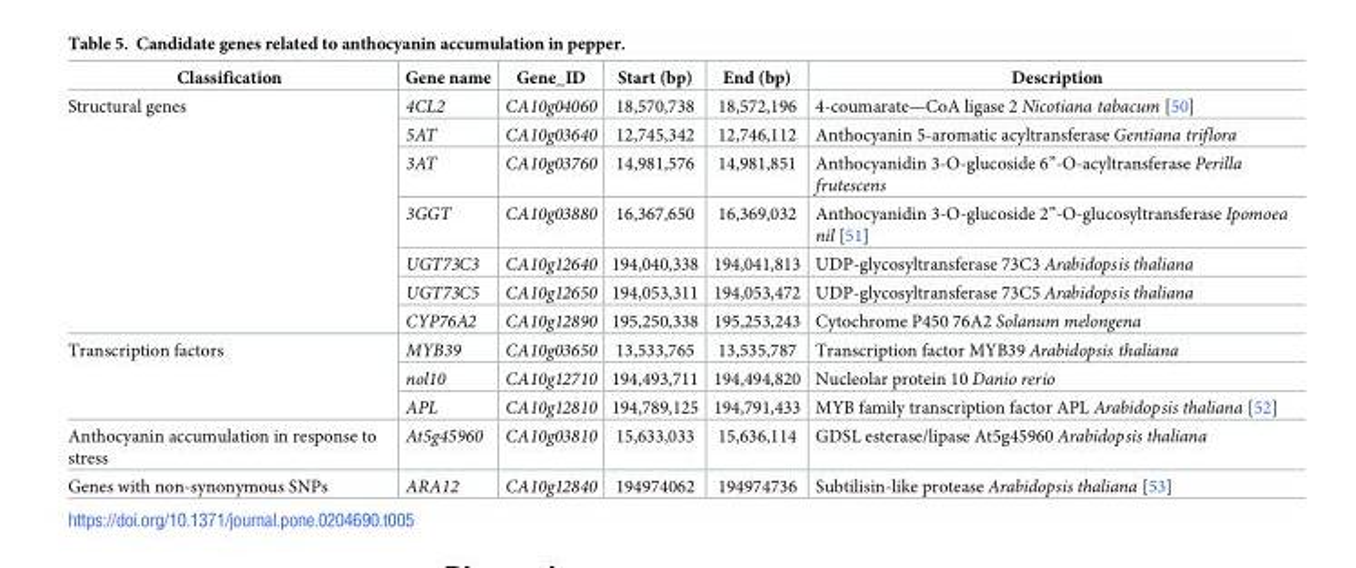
<table><thead><tr><td>Classification</td><td>Gene name</td><td>Gene_ID</td><td>Start (bp)</td><td>End (bp)</td><td>Description</td></tr></thead><tbody><tr><td rowspan="7">Structural genes</td><td>4CL2</td><td>CA10g04060</td><td>18,570,738</td><td>18,572,196</td><td>4-coumarate—CoA ligase 2 Nicotiana tabacum [50]</td></tr><tr><td>5AT</td><td>CA10g03640</td><td>12,745,342</td><td>12,746,112</td><td>Anthocyanin 5-aromatic acyltransferase Gentiana triflora</td></tr><tr><td>3AT</td><td>CA10g03760</td><td>14,981,576</td><td>14,981,851</td><td>Anthocyanidin 3-O-glucoside 6”-O-acyltransferase Perilla frutescens</td></tr><tr><td>3GGT</td><td>CA10g03880</td><td>16,367,650</td><td>16,369,032</td><td>Anthocyanidin 3-O-glucoside 2”-O-glucosyltransferase Ipomoea nil [51]</td></tr><tr><td>UGT73C3</td><td>CA10g12640</td><td>194,040,338</td><td>194,041,813</td><td>UDP-glycosyltransferase 73C3 Arabidopsis thaliana</td></tr><tr><td>UGT73C5</td><td>CA10g12650</td><td>194,053,311</td><td>194,053,472</td><td>UDP-glycosyltransferase 73C5 Arabidopsis thaliana</td></tr><tr><td>CYP76A2</td><td>CA10g12890</td><td>195,250,338</td><td>195,253,243</td><td>Cytochrome P450 76A2 Solanum melongena</td></tr><tr><td rowspan="3">Transcription factors</td><td>MYB39</td><td>CA10g03650</td><td>13,533,765</td><td>13,535,787</td><td>Transcription factor MYB39 Arabidopsis thaliana</td></tr><tr><td>nol10</td><td>CA10g12710</td><td>194,493,711</td><td>194,494,820</td><td>Nucleolar protein 10 Danio rerio</td></tr><tr><td>APL</td><td>CA10g12810</td><td>194,789,125</td><td>194,791,433</td><td>MYB family transcription factor APL Arabidopsis thaliana [52]</td></tr><tr><td>Anthocyanin accumulation in response to stress</td><td>At5g45960</td><td>CA10g03810</td><td>15,633,033</td><td>15,636,114</td><td>GDSL esterase/lipase At5g45960 Arabidopsis thaliana</td></tr><tr><td>Genes with non-synonymous SNPs</td><td>ARA12</td><td>CA10g12840</td><td>194974062</td><td>194974736</td><td>Subtilisin-like protease Arabidopsis thaliana [53]</td></tr></tbody></table>